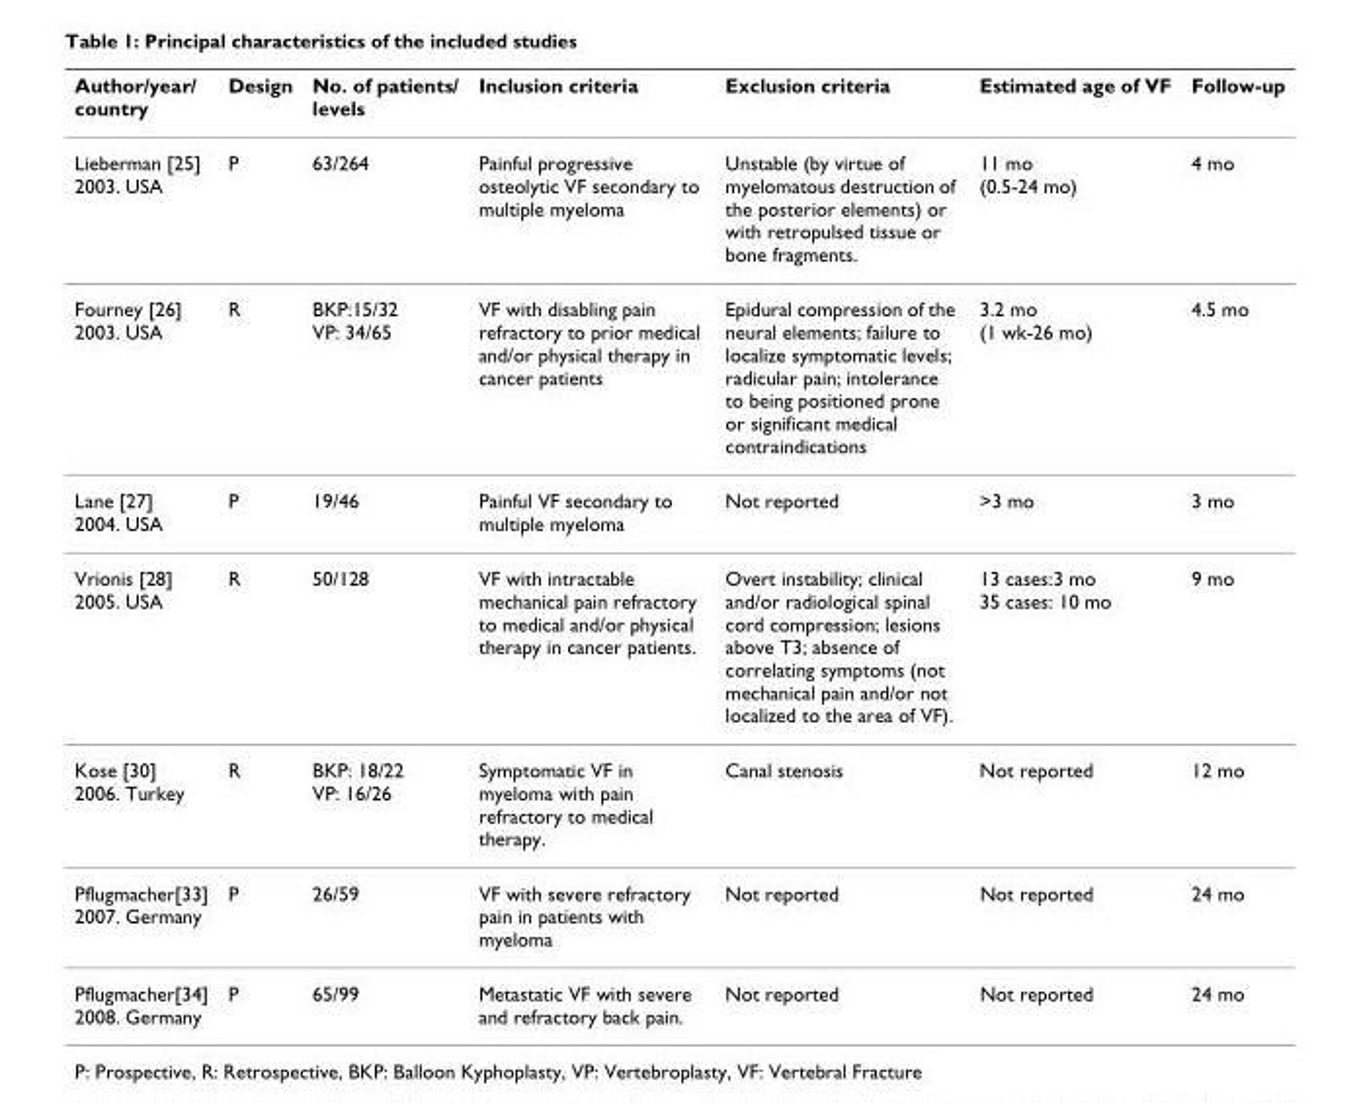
<table><thead><tr><td>Author/year/ country</td><td>Design</td><td>No. of patients/ levels</td><td>Inclusion criteria</td><td>Exclusion criteria</td><td>Estimated age of VF</td><td>Follow-up</td></tr></thead><tbody><tr><td>Lieberman [25] 2003. USA</td><td>P</td><td>63/264</td><td>Painful progressive osteolytic VF secondary to multiple myeloma</td><td>Unstable (by virtue of myelomatous destruction of the posterior elements) or with retropulsed tissue or bone fragments.</td><td>11 mo (0.5-24 mo)</td><td>4 mo</td></tr><tr><td>Fourney [26] 2003. USA</td><td>R</td><td>BKP:15/32 VP: 34/65</td><td>VF with disabling pain refractory to prior medical and/or physical therapy in cancer patients</td><td>Epidural compression of the neural elements; failure to localize symptomatic levels; radicular pain; intolerance to being positioned prone or significant medical contraindications</td><td>3.2 mo (1 wk-26 mo)</td><td>4.5 mo</td></tr><tr><td>Lane [27] 2004. USA</td><td>P</td><td>19/46</td><td>Painful VF secondary to multiple myeloma</td><td>Not reported</td><td>&gt;3 mo</td><td>3 mo</td></tr><tr><td>Vrionis [28] 2005. USA</td><td>R</td><td>50/128</td><td>VF with intractable mechanical pain refractory to medical and/or physical therapy in cancer patients.</td><td>Overt instability; clinical and/or radiological spinal cord compression; lesions above T3; absence of correlating symptoms (not mechanical pain and/or not localized to the area of VF).</td><td>13 cases:3 mo 35 cases: 10 mo</td><td>9 mo</td></tr><tr><td>Kose [30] 2006. Turkey</td><td>R</td><td>BKP: 18/22 VP: 16/26</td><td>Symptomatic VF in myeloma with pain refractory to medical therapy.</td><td>Canal stenosis</td><td>Not reported</td><td>12 mo</td></tr><tr><td>Pflugmacher[33] 2007. Germany</td><td>P</td><td>26/59</td><td>VF with severe refractory pain in patients with myeloma</td><td>Not reported</td><td>Not reported</td><td>24 mo</td></tr><tr><td>Pflugmacher[34] 2008. Germany</td><td>P</td><td>65/99</td><td>Metastatic VF with severe and refractory back pain.</td><td>Not reported</td><td>Not reported</td><td>24 mo</td></tr></tbody></table>